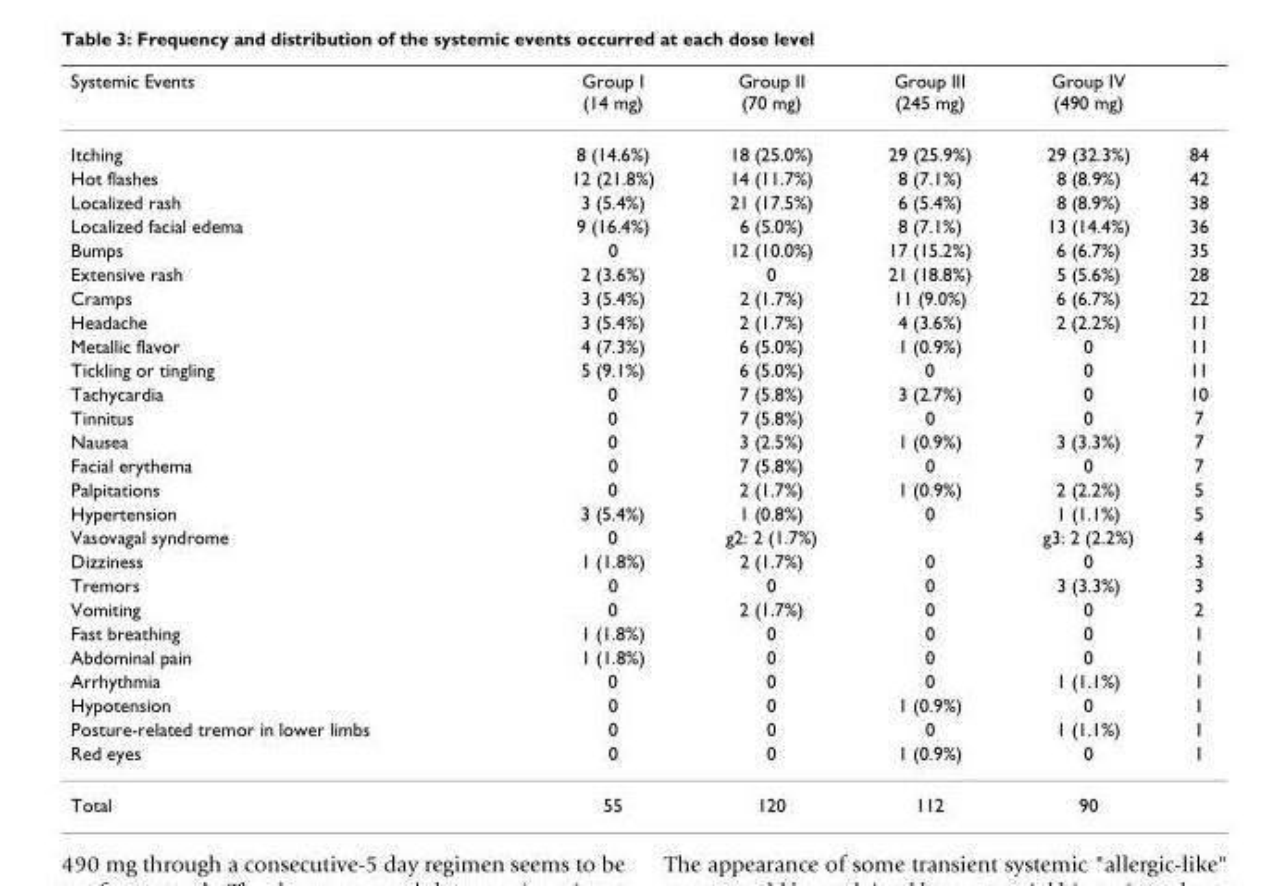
<table><thead><tr><td>Systemic Events</td><td>Group I (14 mg)</td><td>Group II (70 mg)</td><td>Group III (245 mg)</td><td>Group IV (490 mg)</td><td></td></tr></thead><tbody><tr><td>Itching</td><td>8 (14.6%)</td><td>18 (25.0%)</td><td>29 (25.9%)</td><td>29 (32.3%)</td><td>84</td></tr><tr><td>Hot flashes</td><td>12 (21.8%)</td><td>14 (11.7%)</td><td>8 (7.1%)</td><td>8 (8.9%)</td><td>42</td></tr><tr><td>Localized rash</td><td>3 (5.4%)</td><td>21 (17.5%)</td><td>6 (5.4%)</td><td>8 (8.9%)</td><td>38</td></tr><tr><td>Localized facial edema</td><td>9 (16.4%)</td><td>6 (5.0%)</td><td>8 (7.1%)</td><td>13 (14.4%)</td><td>36</td></tr><tr><td>Bumps</td><td>0</td><td>12 (10.0%)</td><td>17 (15.2%)</td><td>6 (6.7%)</td><td>35</td></tr><tr><td>Extensive rash</td><td>2 (3.6%)</td><td>0</td><td>21 (18.8%)</td><td>5 (5.6%)</td><td>28</td></tr><tr><td>Cramps</td><td>3 (5.4%)</td><td>2 (1.7%)</td><td>11 (9.0%)</td><td>6 (6.7%)</td><td>22</td></tr><tr><td>Headache</td><td>3 (5.4%)</td><td>2 (1.7%)</td><td>4 (3.6%)</td><td>2 (2.2%)</td><td>11</td></tr><tr><td>Metallic flavor</td><td>4 (7.3%)</td><td>6 (5.0%)</td><td>1 (0.9%)</td><td>0</td><td>11</td></tr><tr><td>Tickling or tingling</td><td>5 (9.1%)</td><td>6 (5.0%)</td><td>0</td><td>0</td><td>11</td></tr><tr><td>Tachycardia</td><td>0</td><td>7 (5.8%)</td><td>3 (2.7%)</td><td>0</td><td>10</td></tr><tr><td>Tinnitus</td><td>0</td><td>7 (5.8%)</td><td>0</td><td>0</td><td>7</td></tr><tr><td>Nausea</td><td>0</td><td>3 (2.5%)</td><td>1 (0.9%)</td><td>3 (3.3%)</td><td>7</td></tr><tr><td>Facial erythema</td><td>0</td><td>7 (5.8%)</td><td>0</td><td>0</td><td>7</td></tr><tr><td>Palpitations</td><td>0</td><td>2 (1.7%)</td><td>1 (0.9%)</td><td>2 (2.2%)</td><td>5</td></tr><tr><td>Hypertension</td><td>3 (5.4%)</td><td>1 (0.8%)</td><td>0</td><td>1 (1.1%)</td><td>5</td></tr><tr><td>Vasovagal syndrome</td><td>0</td><td>g2: 2 (1.7%)</td><td></td><td>g3: 2 (2.2%)</td><td>4</td></tr><tr><td>Dizziness</td><td>1 (1.8%)</td><td>2 (1.7%)</td><td>0</td><td>0</td><td>3</td></tr><tr><td>Tremors</td><td>0</td><td>0</td><td>0</td><td>3 (3.3%)</td><td>3</td></tr><tr><td>Vomiting</td><td>0</td><td>2 (1.7%)</td><td>0</td><td>0</td><td>2</td></tr><tr><td>Fast breathing</td><td>1 (1.8%)</td><td>0</td><td>0</td><td>0</td><td>1</td></tr><tr><td>Abdominal pain</td><td>1 (1.8%)</td><td>0</td><td>0</td><td>0</td><td>1</td></tr><tr><td>Arrhythmia</td><td>0</td><td>0</td><td>0</td><td>1 (1.1%)</td><td>1</td></tr><tr><td>Hypotension</td><td>0</td><td>0</td><td>1 (0.9%)</td><td>0</td><td>1</td></tr><tr><td>Posture-related tremor in lower limbs</td><td>0</td><td>0</td><td>0</td><td>1 (1.1%)</td><td>1</td></tr><tr><td>Red eyes</td><td>0</td><td>0</td><td>1 (0.9%)</td><td>0</td><td>1</td></tr><tr><td>Total</td><td>55</td><td>120</td><td>112</td><td>90</td><td></td></tr></tbody></table>